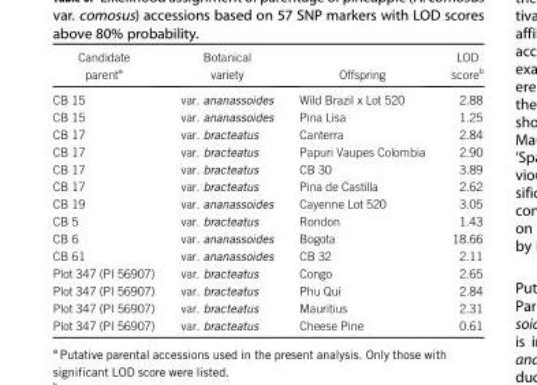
<table><thead><tr><td>Candidate parent<sup>a</sup></td><td>Botanical variety</td><td>Offspring</td><td>LOD score<sup>b</sup></td></tr></thead><tbody><tr><td>CB 15</td><td>var. ananassoides</td><td>Wild Brazil x Lot 520</td><td>2.88</td></tr><tr><td>CB 15</td><td>var. ananassoides</td><td>Pina Lisa</td><td>1.25</td></tr><tr><td>CB 17</td><td>var. bracteatus</td><td>Canterra</td><td>2.84</td></tr><tr><td>CB 17</td><td>var. bracteatus</td><td>Papuri Vaupes Colombia</td><td>2.90</td></tr><tr><td>CB 17</td><td>var. bracteatus</td><td>CB 30</td><td>3.89</td></tr><tr><td>CB 17</td><td>var. bracteatus</td><td>Pina de Castilla</td><td>2.62</td></tr><tr><td>CB 19</td><td>var. ananassoides</td><td>Cayenne Lot 520</td><td>3.05</td></tr><tr><td>CB 5</td><td>var. bracteatus</td><td>Rondon</td><td>1.43</td></tr><tr><td>CB 6</td><td>var. ananassoides</td><td>Bogota</td><td>18.66</td></tr><tr><td>CB 61</td><td>var. ananassoides</td><td>CB 32</td><td>2.11</td></tr><tr><td>Plot 347 (PI 56907)</td><td>var. bracteatus</td><td>Congo</td><td>2.65</td></tr><tr><td>Plot 347 (PI 56907)</td><td>var. bracteatus</td><td>Phu Qui</td><td>2.84</td></tr><tr><td>Plot 347 (PI 56907)</td><td>var. bracteatus</td><td>Mauritius</td><td>2.31</td></tr><tr><td>Plot 347 (PI 56907)</td><td>var. bracteatus</td><td>Cheese Pine</td><td>0.61</td></tr></tbody></table>